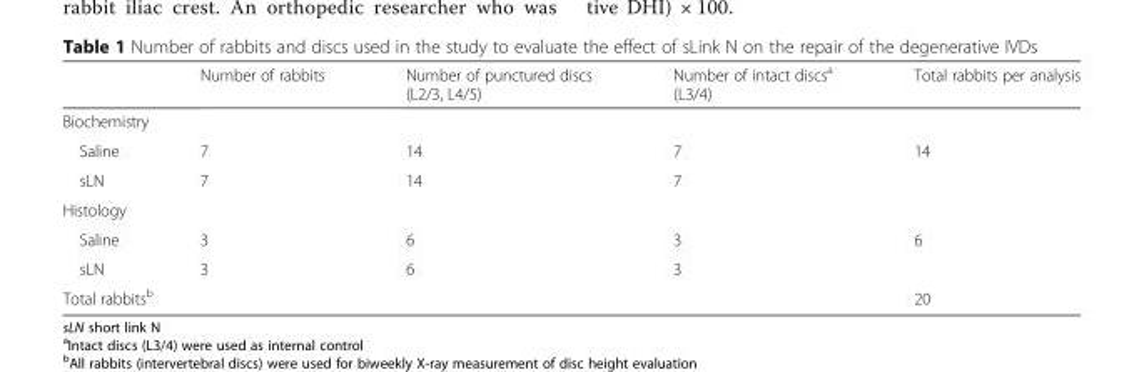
<table><thead><tr><td></td><td>Number of rabbits</td><td>Number of punctured discs (L2/3, L4/5)</td><td>Number of intact discs<sup>a</sup> (L3/4)</td><td>Total rabbits per analysis</td></tr></thead><tbody><tr><td colspan="5">Biochemistry</td></tr><tr><td>Saline</td><td>7</td><td>14</td><td>7</td><td rowspan="2">14</td></tr><tr><td>sLN</td><td>7</td><td>14</td><td>7</td></tr><tr><td colspan="5">Histology</td></tr><tr><td>Saline</td><td>3</td><td>6</td><td>3</td><td rowspan="2">6</td></tr><tr><td>sLN</td><td>3</td><td>6</td><td>3</td></tr><tr><td colspan="2">Total rabbits<sup>b</sup></td><td colspan="2"></td><td>20</td></tr></tbody></table>